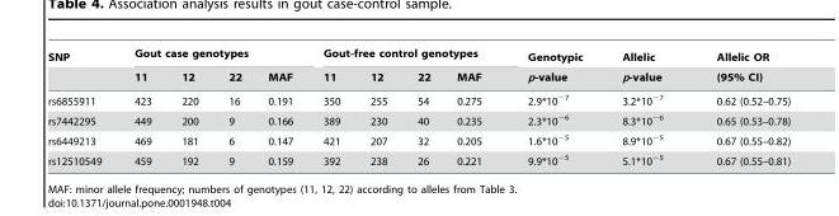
<table><thead><tr><td rowspan="2">SNP</td><td colspan="4">Gout case genotypes</td><td colspan="4">Gout-free control genotypes</td><td rowspan="2">Genotypic p-value</td><td rowspan="2">Allelic p-value</td><td rowspan="2">Allelic OR (95% CI)</td></tr><tr><td>11</td><td>12</td><td>22</td><td>MAF</td><td>11</td><td>12</td><td>22</td><td>MAF</td></tr></thead><tbody><tr><td>rs6855911</td><td>423</td><td>220</td><td>16</td><td>0.191</td><td>350</td><td>255</td><td>54</td><td>0.275</td><td>2.9*10<sup>−7</sup></td><td>3.2*10<sup>−7</sup></td><td>0.62 (0.52–0.75)</td></tr><tr><td>rs7442295</td><td>449</td><td>200</td><td>9</td><td>0.166</td><td>389</td><td>230</td><td>40</td><td>0.235</td><td>2.3*10<sup>−6</sup></td><td>8.3*10<sup>−6</sup></td><td>0.65 (0.53–0.78)</td></tr><tr><td>rs6449213</td><td>469</td><td>181</td><td>6</td><td>0.147</td><td>421</td><td>207</td><td>32</td><td>0.205</td><td>1.6*10<sup>−5</sup></td><td>8.9*10<sup>−5</sup></td><td>0.67 (0.55–0.82)</td></tr><tr><td>rs12510549</td><td>459</td><td>192</td><td>9</td><td>0.159</td><td>392</td><td>238</td><td>26</td><td>0.221</td><td>9.9*10<sup>−5</sup></td><td>5.1*10<sup>−5</sup></td><td>0.67 (0.55–0.81)</td></tr></tbody></table>